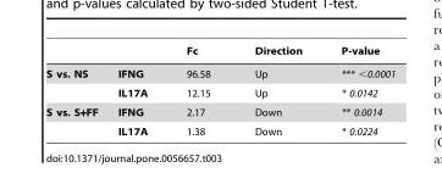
<table><thead><tr><td></td><td></td><td>Fc</td><td>Direction</td><td>P-value</td></tr></thead><tbody><tr><td rowspan="2">S vs. NS</td><td>IFNG</td><td>96.58</td><td>Up</td><td>*** &lt;0.0001</td></tr><tr><td>IL17A</td><td>12.15</td><td>Up</td><td>* 0.0142</td></tr><tr><td rowspan="2">S vs. S+FF</td><td>IFNG</td><td>2.17</td><td>Down</td><td>** 0.0014</td></tr><tr><td>IL17A</td><td>1.38</td><td>Down</td><td>* 0.0224</td></tr></tbody></table>